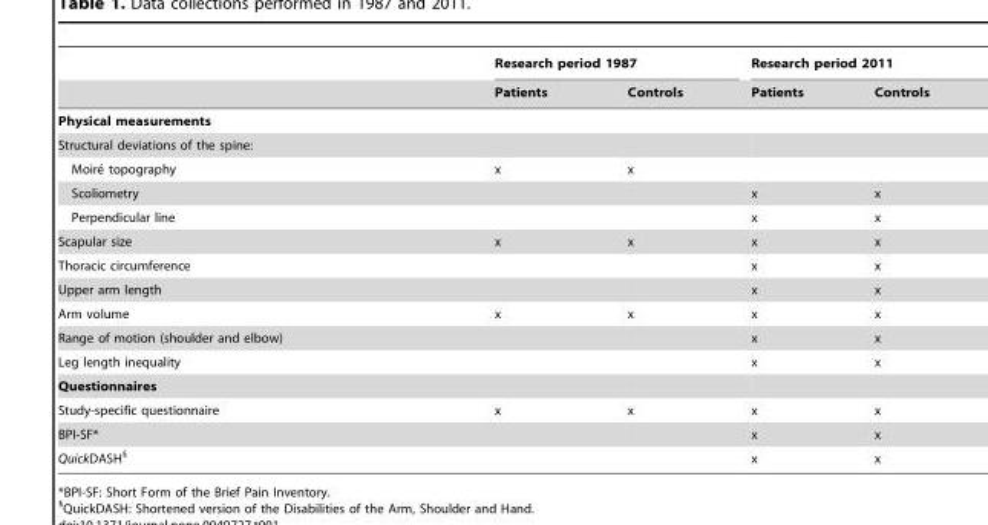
<table><thead><tr><td rowspan="2"></td><td colspan="2">Research period 1987</td><td colspan="2">Research period 2011</td></tr><tr><td>Patients</td><td>Controls</td><td>Patients</td><td>Controls</td></tr></thead><tbody><tr><td colspan="5">Physical measurements</td></tr><tr><td colspan="5">Structural deviations of the spine:</td></tr><tr><td>Moire´ topography</td><td>x</td><td>x</td><td></td><td></td></tr><tr><td>Scoliometry</td><td></td><td></td><td>x</td><td>x</td></tr><tr><td>Perpendicular line</td><td></td><td></td><td>x</td><td>x</td></tr><tr><td>Scapular size</td><td>x</td><td>x</td><td>x</td><td>x</td></tr><tr><td>Thoracic circumference</td><td></td><td></td><td>x</td><td>x</td></tr><tr><td>Upper arm length</td><td></td><td></td><td>x</td><td>x</td></tr><tr><td>Arm volume</td><td>x</td><td>x</td><td>x</td><td>x</td></tr><tr><td>Range of motion (shoulder and elbow)</td><td></td><td></td><td>x</td><td>x</td></tr><tr><td>Leg length inequality</td><td></td><td></td><td>x</td><td>x</td></tr><tr><td colspan="5">Questionnaires</td></tr><tr><td>Study-specific questionnaire</td><td>x</td><td>x</td><td>x</td><td>x</td></tr><tr><td>BPI-SF*</td><td></td><td></td><td>x</td><td>x</td></tr><tr><td>QuickDASH§</td><td></td><td></td><td>x</td><td>x</td></tr></tbody></table>